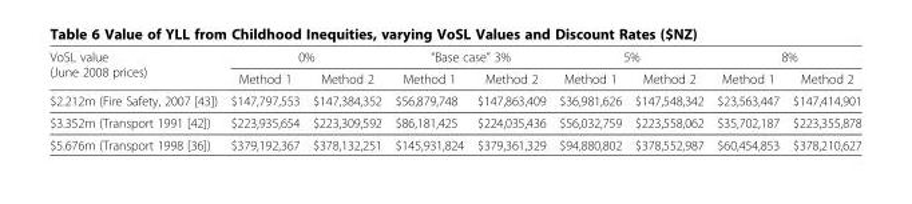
<table><tbody><tr><td rowspan="2">VoSL value (June 2008 prices)</td><td colspan="2">0%</td><td colspan="2">“Base case” 3%</td><td colspan="2">5%</td><td colspan="2">8%</td></tr><tr><td>Method 1</td><td>Method 2</td><td>Method 1</td><td>Method 2</td><td>Method 1</td><td>Method 2</td><td>Method 1</td><td>Method 2</td></tr><tr><td>$2.212m (Fire Safety, 2007 [43])</td><td>$147,797,553</td><td>$147,384,352</td><td>$56,879,748</td><td>$147,863,409</td><td>$36,981,626</td><td>$147,548,342</td><td>$23,563,447</td><td>$147,414,901</td></tr><tr><td>$3.352m (Transport 1991 [42])</td><td>$223,935,654</td><td>$223,309,592</td><td>$86,181,425</td><td>$224,035,436</td><td>$56,032,759</td><td>$223,558,062</td><td>$35,702,187</td><td>$223,355,878</td></tr><tr><td>$5.676m (Transport 1998 [36])</td><td>$379,192,367</td><td>$378,132,251</td><td>$145,931,824</td><td>$379,361,329</td><td>$94,880,802</td><td>$378,552,987</td><td>$60,454,853</td><td>$378,210,627</td></tr></tbody></table>